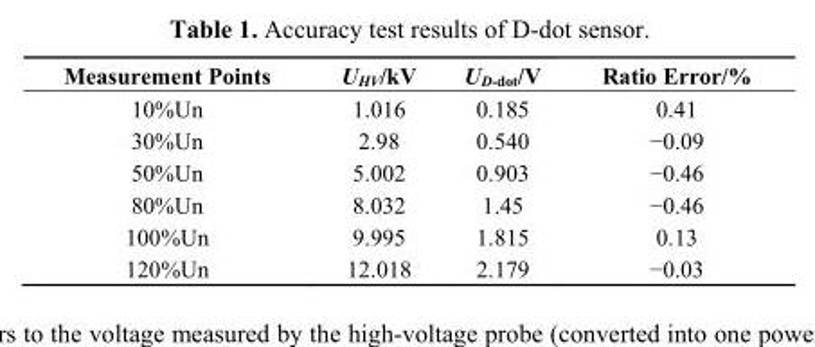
<table><thead><tr><td>Measurement Points</td><td>U<sub>HV</sub>/kV</td><td>U<sub>D-dot</sub>/V</td><td>Ratio Error/%</td></tr></thead><tbody><tr><td>10%Un</td><td>1.016</td><td>0.185</td><td>0.41</td></tr><tr><td>30%Un</td><td>2.98</td><td>0.540</td><td>−0.09</td></tr><tr><td>50%Un</td><td>5.002</td><td>0.903</td><td>−0.46</td></tr><tr><td>80%Un</td><td>8.032</td><td>1.45</td><td>−0.46</td></tr><tr><td>100%Un</td><td>9.995</td><td>1.815</td><td>0.13</td></tr><tr><td>120%Un</td><td>12.018</td><td>2.179</td><td>−0.03</td></tr></tbody></table>